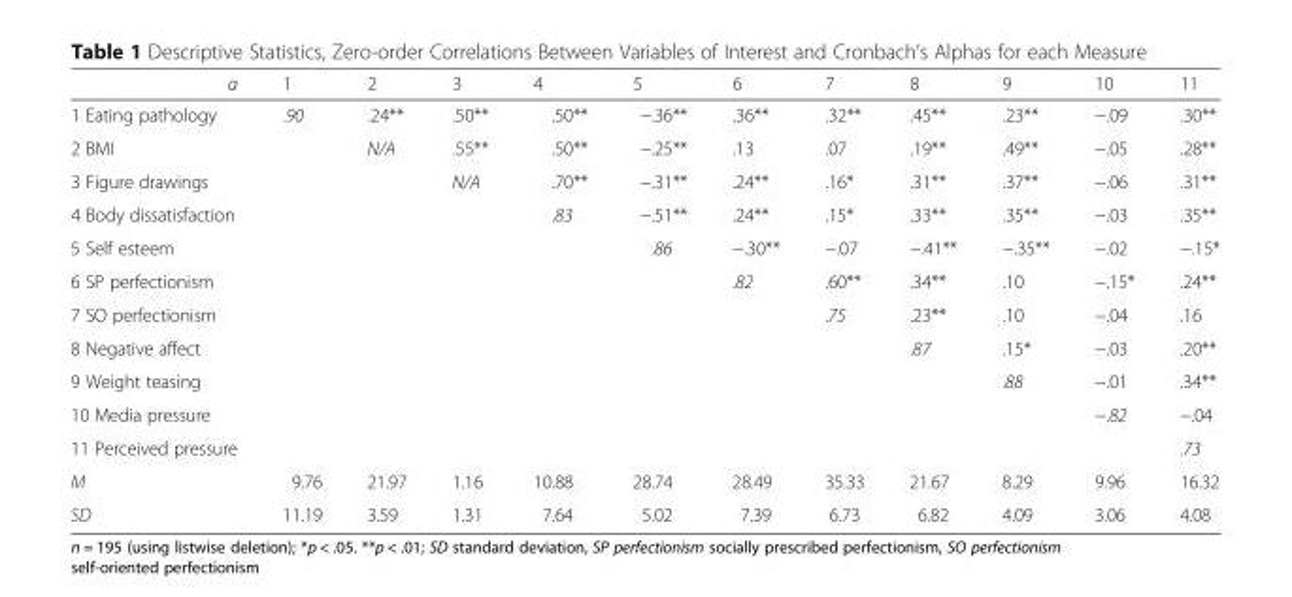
<table><thead><tr><td>α</td><td>1</td><td>2</td><td>3</td><td>4</td><td>5</td><td>6</td><td>7</td><td>8</td><td>9</td><td>10</td><td>11</td></tr></thead><tbody><tr><td>1 Eating pathology</td><td>.90</td><td>.24**</td><td>.50**</td><td>.50**</td><td>−.36**</td><td>.36**</td><td>.32**</td><td>.45**</td><td>.23**</td><td>−.09</td><td>.30**</td></tr><tr><td>2 BMI</td><td></td><td>N/A</td><td>.55**</td><td>.50**</td><td>−.25**</td><td>.13</td><td>.07</td><td>.19**</td><td>.49**</td><td>−.05</td><td>.28**</td></tr><tr><td>3 Figure drawings</td><td></td><td></td><td>N/A</td><td>.70**</td><td>−.31**</td><td>.24**</td><td>.16*</td><td>.31**</td><td>.37**</td><td>−.06</td><td>.31**</td></tr><tr><td>4 Body dissatisfaction</td><td></td><td></td><td></td><td>.83</td><td>−.51**</td><td>.24**</td><td>.15*</td><td>.33**</td><td>.35**</td><td>−.03</td><td>.35**</td></tr><tr><td>5 Self esteem</td><td></td><td></td><td></td><td></td><td>.86</td><td>−.30**</td><td>−.07</td><td>−.41**</td><td>−.35**</td><td>−.02</td><td>−.15*</td></tr><tr><td>6 SP perfectionism</td><td></td><td></td><td></td><td></td><td></td><td>.82</td><td>.60**</td><td>.34**</td><td>.10</td><td>−.15*</td><td>.24**</td></tr><tr><td>7 SO perfectionism</td><td></td><td></td><td></td><td></td><td></td><td></td><td>.75</td><td>.23**</td><td>.10</td><td>−.04</td><td>.16</td></tr><tr><td>8 Negative affect</td><td></td><td></td><td></td><td></td><td></td><td></td><td></td><td>.87</td><td>.15*</td><td>−.03</td><td>.20**</td></tr><tr><td>9 Weight teasing</td><td></td><td></td><td></td><td></td><td></td><td></td><td></td><td></td><td>.88</td><td>−.01</td><td>.34**</td></tr><tr><td>10 Media pressure</td><td></td><td></td><td></td><td></td><td></td><td></td><td></td><td></td><td></td><td>−.82</td><td>−.04</td></tr><tr><td>11 Perceived pressure</td><td></td><td></td><td></td><td></td><td></td><td></td><td></td><td></td><td></td><td></td><td>.73</td></tr><tr><td>M</td><td>9.76</td><td>21.97</td><td>1.16</td><td>10.88</td><td>28.74</td><td>28.49</td><td>35.33</td><td>21.67</td><td>8.29</td><td>9.96</td><td>16.32</td></tr><tr><td>SD</td><td>11.19</td><td>3.59</td><td>1.31</td><td>7.64</td><td>5.02</td><td>7.39</td><td>6.73</td><td>6.82</td><td>4.09</td><td>3.06</td><td>4.08</td></tr></tbody></table>